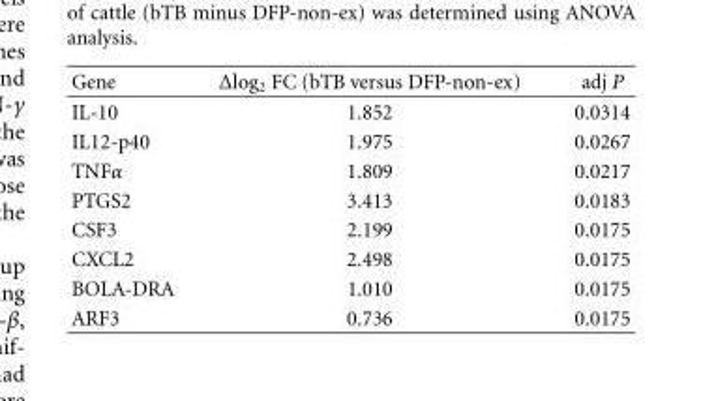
<table><thead><tr><td>Gene</td><td>Δlog<sub>2</sub> FC (bTB versus DFP-non-ex)</td><td>adj P</td></tr></thead><tbody><tr><td>IL-10</td><td>1.852</td><td>0.0314</td></tr><tr><td>IL12-p40</td><td>1.975</td><td>0.0267</td></tr><tr><td>TNFα</td><td>1.809</td><td>0.0217</td></tr><tr><td>PTGS2</td><td>3.413</td><td>0.0183</td></tr><tr><td>CSF3</td><td>2.199</td><td>0.0175</td></tr><tr><td>CXCL2</td><td>2.498</td><td>0.0175</td></tr><tr><td>BOLA-DRA</td><td>1.010</td><td>0.0175</td></tr><tr><td>ARF3</td><td>0.736</td><td>0.0175</td></tr></tbody></table>